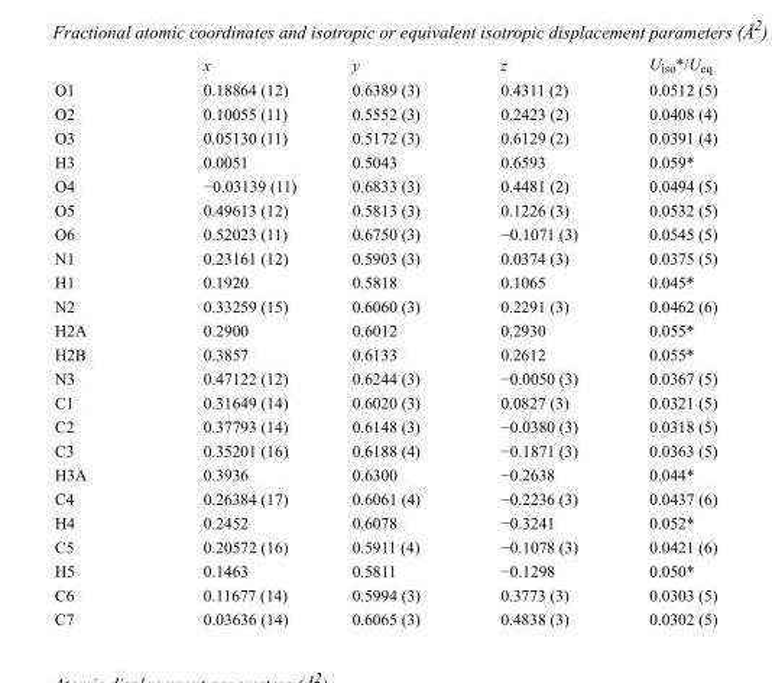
<table><thead><tr><td></td><td>x</td><td>y</td><td>z</td><td>U<sub>iso</sub>*/U<sub>eq</sub></td></tr></thead><tbody><tr><td>O1</td><td>0.18864 (12)</td><td>0.6389 (3)</td><td>0.4311 (2)</td><td>0.0512 (5)</td></tr><tr><td>O2</td><td>0.10055 (11)</td><td>0.5552 (3)</td><td>0.2423 (2)</td><td>0.0408 (4)</td></tr><tr><td>O3</td><td>0.05130 (11)</td><td>0.5172 (3)</td><td>0.6129 (2)</td><td>0.0391 (4)</td></tr><tr><td>H3</td><td>0.0051</td><td>0.5043</td><td>0.6593</td><td>0.059*</td></tr><tr><td>O4</td><td>−0.03139 (11)</td><td>0.6833 (3)</td><td>0.4481 (2)</td><td>0.0494 (5)</td></tr><tr><td>O5</td><td>0.49613 (12)</td><td>0.5813 (3)</td><td>0.1226 (3)</td><td>0.0532 (5)</td></tr><tr><td>O6</td><td>0.52023 (11)</td><td>0.6750 (3)</td><td>−0.1071 (3)</td><td>0.0545 (5)</td></tr><tr><td>N1</td><td>0.23161 (12)</td><td>0.5903 (3)</td><td>0.0374 (3)</td><td>0.0375 (5)</td></tr><tr><td>H1</td><td>0.1920</td><td>0.5818</td><td>0.1065</td><td>0.045*</td></tr><tr><td>N2</td><td>0.33259 (15)</td><td>0.6060 (3)</td><td>0.2291 (3)</td><td>0.0462 (6)</td></tr><tr><td>H2A</td><td>0.2900</td><td>0.6012</td><td>0.2930</td><td>0.055*</td></tr><tr><td>H2B</td><td>0.3857</td><td>0.6133</td><td>0.2612</td><td>0.055*</td></tr><tr><td>N3</td><td>0.47122 (12)</td><td>0.6244 (3)</td><td>−0.0050 (3)</td><td>0.0367 (5)</td></tr><tr><td>C1</td><td>0.31649 (14)</td><td>0.6020 (3)</td><td>0.0827 (3)</td><td>0.0321 (5)</td></tr><tr><td>C2</td><td>0.37793 (14)</td><td>0.6148 (3)</td><td>−0.0380 (3)</td><td>0.0318 (5)</td></tr><tr><td>C3</td><td>0.35201 (16)</td><td>0.6188 (4)</td><td>−0.1871 (3)</td><td>0.0363 (5)</td></tr><tr><td>H3A</td><td>0.3936</td><td>0.6300</td><td>−0.2638</td><td>0.044*</td></tr><tr><td>C4</td><td>0.26384 (17)</td><td>0.6061 (4)</td><td>−0.2236 (3)</td><td>0.0437 (6)</td></tr><tr><td>H4</td><td>0.2452</td><td>0.6078</td><td>−0.3241</td><td>0.052*</td></tr><tr><td>C5</td><td>0.20572 (16)</td><td>0.5911 (4)</td><td>−0.1078 (3)</td><td>0.0421 (6)</td></tr><tr><td>H5</td><td>0.1463</td><td>0.5811</td><td>−0.1298</td><td>0.050*</td></tr><tr><td>C6</td><td>0.11677 (14)</td><td>0.5994 (3)</td><td>0.3773 (3)</td><td>0.0303 (5)</td></tr><tr><td>C7</td><td>0.03636 (14)</td><td>0.6065 (3)</td><td>0.4838 (3)</td><td>0.0302 (5)</td></tr></tbody></table>